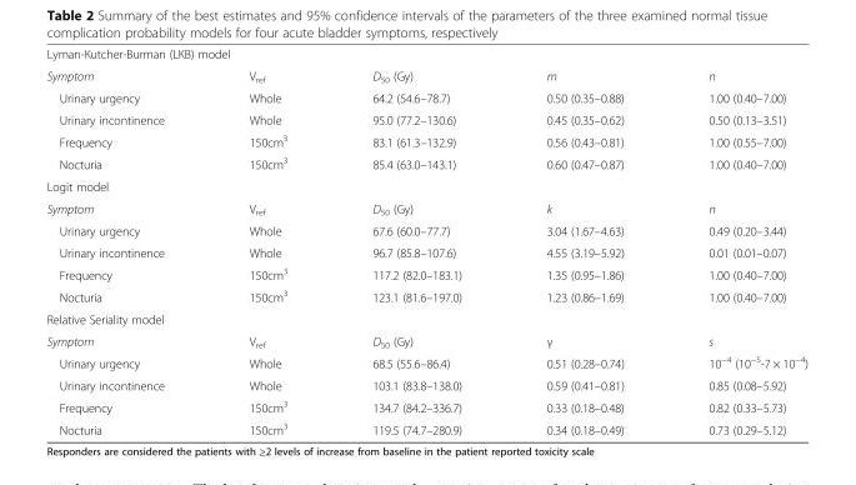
<table><tbody><tr><td colspan="5">Lyman-Kutcher-Burman (LKB) model</td></tr><tr><td>Symptom</td><td>V<sub>ref</sub></td><td>D<sub>50</sub> (Gy)</td><td>m</td><td>n</td></tr><tr><td>Urinary urgency</td><td>Whole</td><td>64.2 (54.6–78.7)</td><td>0.50 (0.35–0.88)</td><td>1.00 (0.40–7.00)</td></tr><tr><td>Urinary incontinence</td><td>Whole</td><td>95.0 (77.2–130.6)</td><td>0.45 (0.35–0.62)</td><td>0.50 (0.13–3.51)</td></tr><tr><td>Frequency</td><td>150cm<sup>3</sup></td><td>83.1 (61.3–132.9)</td><td>0.56 (0.43–0.81)</td><td>1.00 (0.55–7.00)</td></tr><tr><td>Nocturia</td><td>150cm<sup>3</sup></td><td>85.4 (63.0–143.1)</td><td>0.60 (0.47–0.87)</td><td>1.00 (0.40–7.00)</td></tr><tr><td colspan="5">Logit model</td></tr><tr><td>Symptom</td><td>V<sub>ref</sub></td><td>D<sub>50</sub> (Gy)</td><td>k</td><td>n</td></tr><tr><td>Urinary urgency</td><td>Whole</td><td>67.6 (60.0–77.7)</td><td>3.04 (1.67–4.63)</td><td>0.49 (0.20–3.44)</td></tr><tr><td>Urinary incontinence</td><td>Whole</td><td>96.7 (85.8–107.6)</td><td>4.55 (3.19–5.92)</td><td>0.01 (0.01–0.07)</td></tr><tr><td>Frequency</td><td>150cm<sup>3</sup></td><td>117.2 (82.0–183.1)</td><td>1.35 (0.95–1.86)</td><td>1.00 (0.40–7.00)</td></tr><tr><td>Nocturia</td><td>150cm<sup>3</sup></td><td>123.1 (81.6–197.0)</td><td>1.23 (0.86–1.69)</td><td>1.00 (0.40–7.00)</td></tr><tr><td colspan="5">Relative Seriality model</td></tr><tr><td>Symptom</td><td>V<sub>ref</sub></td><td>D<sub>50</sub> (Gy)</td><td>γ</td><td>s</td></tr><tr><td>Urinary urgency</td><td>Whole</td><td>68.5 (55.6–86.4)</td><td>0.51 (0.28–0.74)</td><td>10<sup>−4</sup> (10<sup>−5</sup>-7 × 10<sup>−4</sup>)</td></tr><tr><td>Urinary incontinence</td><td>Whole</td><td>103.1 (83.8–138.0)</td><td>0.59 (0.41–0.81)</td><td>0.85 (0.08–5.92)</td></tr><tr><td>Frequency</td><td>150cm<sup>3</sup></td><td>134.7 (84.2–336.7)</td><td>0.33 (0.18–0.48)</td><td>0.82 (0.33–5.73)</td></tr><tr><td>Nocturia</td><td>150cm<sup>3</sup></td><td>119.5 (74.7–280.9)</td><td>0.34 (0.18–0.49)</td><td>0.73 (0.29–5.12)</td></tr></tbody></table>